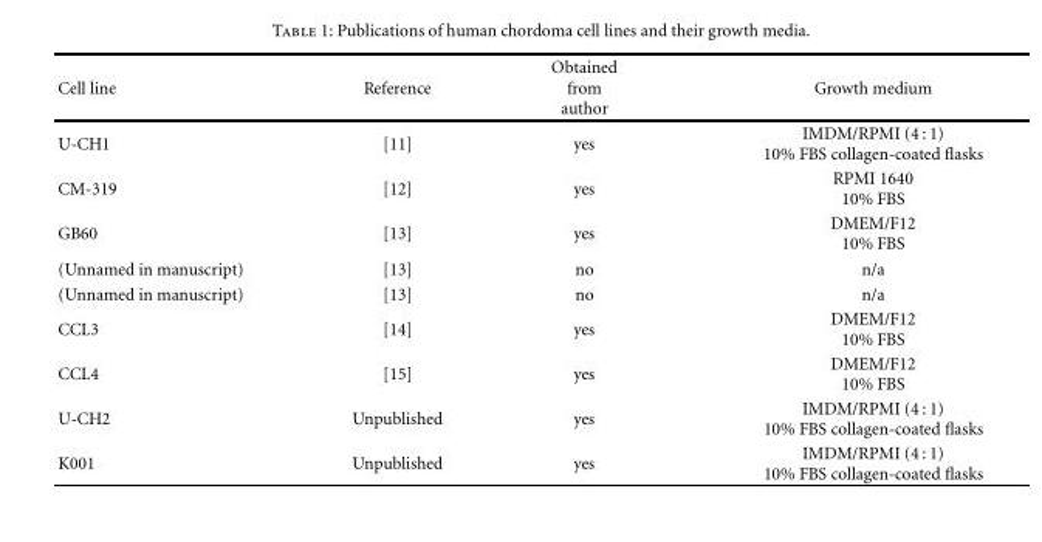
<table><thead><tr><td>Cell line</td><td>Reference</td><td>Obtained from author</td><td>Growth medium</td></tr></thead><tbody><tr><td>U-CH1</td><td>[11]</td><td>yes</td><td>IMDM/RPMI (4 : 1) 10% FBS collagen-coated flasks</td></tr><tr><td>CM-319</td><td>[12]</td><td>yes</td><td>RPMI 1640 10% FBS</td></tr><tr><td>GB60</td><td>[13]</td><td>yes</td><td>DMEM/F12 10% FBS</td></tr><tr><td>(Unnamed in manuscript)</td><td>[13]</td><td>no</td><td>n/a</td></tr><tr><td>(Unnamed in manuscript)</td><td>[13]</td><td>no</td><td>n/a</td></tr><tr><td>CCL3</td><td>[14]</td><td>yes</td><td>DMEM/F12 10% FBS</td></tr><tr><td>CCL4</td><td>[15]</td><td>yes</td><td>DMEM/F12 10% FBS</td></tr><tr><td>U-CH2</td><td>Unpublished</td><td>yes</td><td>IMDM/RPMI (4 : 1) 10% FBS collagen-coated flasks</td></tr><tr><td>K001</td><td>Unpublished</td><td>yes</td><td>IMDM/RPMI (4 : 1) 10% FBS collagen-coated flasks</td></tr></tbody></table>